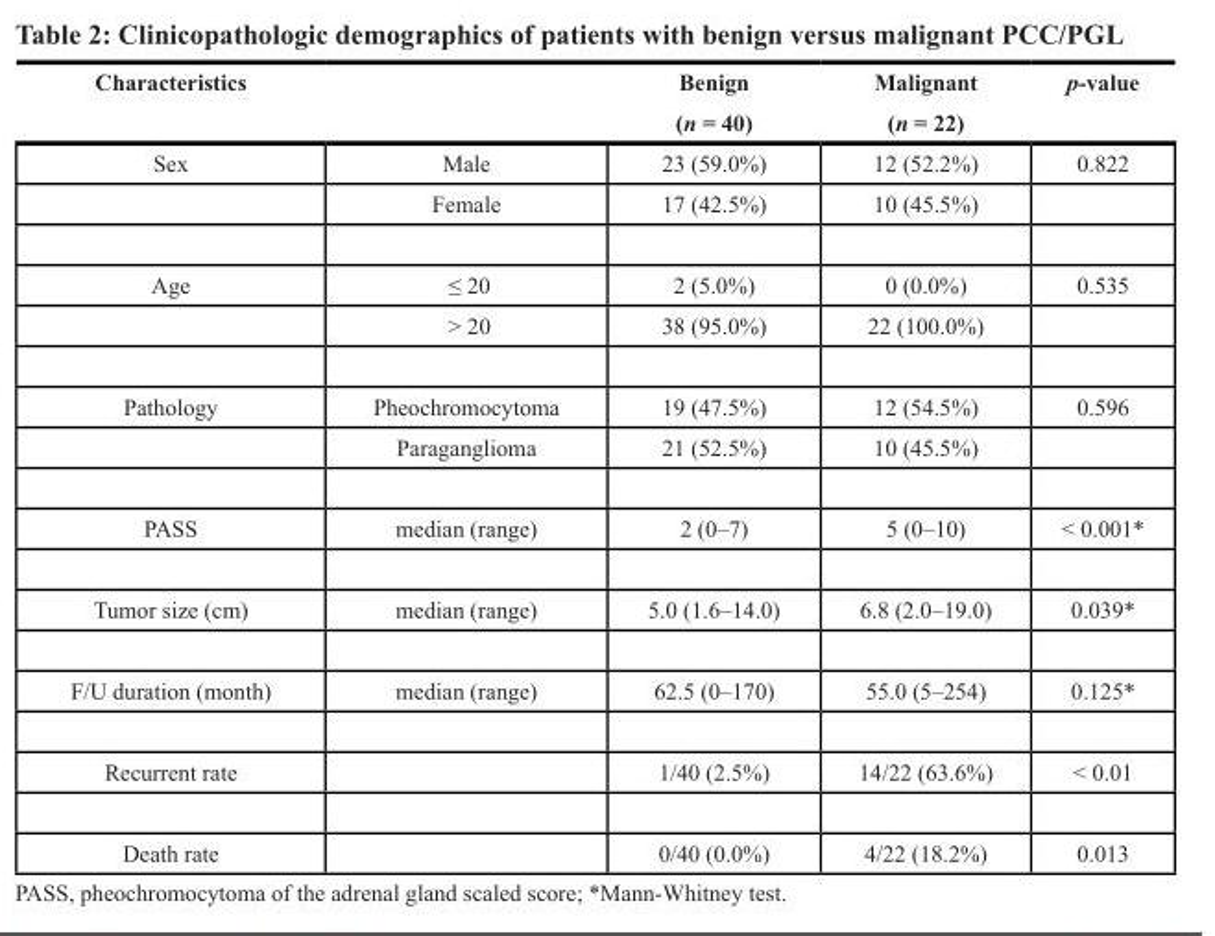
<table><thead><tr><td>Characteristics</td><td></td><td>Benign (n = 40)</td><td>Malignant (n = 22)</td><td>p-value</td></tr></thead><tbody><tr><td rowspan="2">Sex</td><td>Male</td><td>23 (59.0%)</td><td>12 (52.2%)</td><td>0.822</td></tr><tr><td>Female</td><td>17 (42.5%)</td><td>10 (45.5%)</td><td></td></tr><tr><td rowspan="2">Age</td><td>≤ 20</td><td>2 (5.0%)</td><td>0 (0.0%)</td><td>0.535</td></tr><tr><td>&gt; 20</td><td>38 (95.0%)</td><td>22 (100.0%)</td><td></td></tr><tr><td rowspan="2">Pathology</td><td>Pheochromocytoma</td><td>19 (47.5%)</td><td>12 (54.5%)</td><td>0.596</td></tr><tr><td>Paraganglioma</td><td>21 (52.5%)</td><td>10 (45.5%)</td><td></td></tr><tr><td>PASS</td><td>median (range)</td><td>2 (0–7)</td><td>5 (0–10)</td><td>&lt; 0.001*</td></tr><tr><td>Tumor size (cm)</td><td>median (range)</td><td>5.0 (1.6–14.0)</td><td>6.8 (2.0–19.0)</td><td>0.039*</td></tr><tr><td>F/U duration (month)</td><td>median (range)</td><td>62.5 (0–170)</td><td>55.0 (5–254)</td><td>0.125*</td></tr><tr><td>Recurrent rate</td><td></td><td>1/40 (2.5%)</td><td>14/22 (63.6%)</td><td>&lt; 0.01</td></tr><tr><td>Death rate</td><td></td><td>0/40 (0.0%)</td><td>4/22 (18.2%)</td><td>0.013</td></tr></tbody></table>